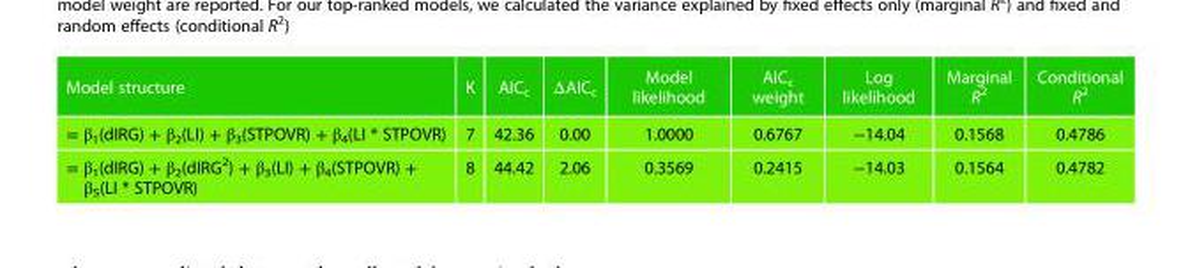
<table><thead><tr><td>Model structure</td><td>K</td><td>AIC<sub>c</sub></td><td>ΔAIC<sub>c</sub></td><td>Model likelihood</td><td>AIC<sub>c</sub> weight</td><td>Log likelihood</td><td>Marginal R<sup>2</sup></td><td>Conditional R<sup>2</sup></td></tr></thead><tbody><tr><td>= β<sub>1</sub>(dIRG) + β<sub>2</sub>(LI) + β<sub>3</sub>(STPOVR) + β<sub>4</sub>(LI * STPOVR)</td><td>7</td><td>42.36</td><td>0.00</td><td>1.0000</td><td>0.6767</td><td>−14.04</td><td>0.1568</td><td>0.4786</td></tr><tr><td>= β<sub>1</sub>(dIRG) + β<sub>2</sub>(dIRG<sup>2</sup>) + β<sub>3</sub>(LI) + β<sub>4</sub>(STPOVR) + β<sub>5</sub>(LI * STPOVR)</td><td>8</td><td>44.42</td><td>2.06</td><td>0.3569</td><td>0.2415</td><td>−14.03</td><td>0.1564</td><td>0.4782</td></tr></tbody></table>